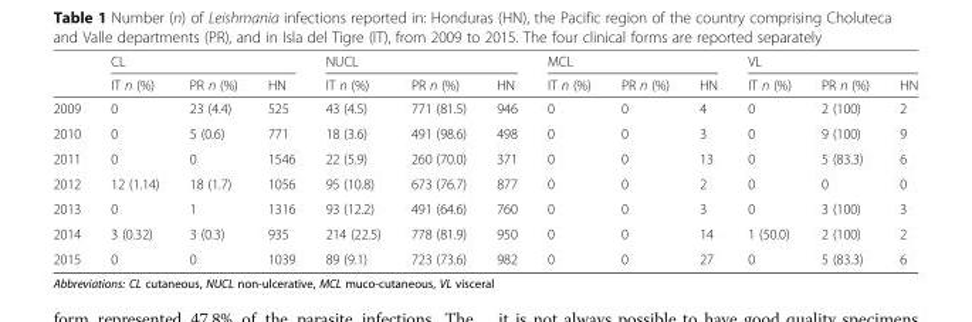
<table><thead><tr><td rowspan="2"></td><td colspan="3">CL</td><td colspan="3">NUCL</td><td colspan="3">MCL</td><td colspan="3">VL</td></tr><tr><td>IT n (%)</td><td>PR n (%)</td><td>HN</td><td>IT n (%)</td><td>PR n (%)</td><td>HN</td><td>IT n (%)</td><td>PR n (%)</td><td>HN</td><td>IT n (%)</td><td>PR n (%)</td><td>HN</td></tr></thead><tbody><tr><td>2009</td><td>0</td><td>23 (4.4)</td><td>525</td><td>43 (4.5)</td><td>771 (81.5)</td><td>946</td><td>0</td><td>0</td><td>4</td><td>0</td><td>2 (100)</td><td>2</td></tr><tr><td>2010</td><td>0</td><td>5 (0.6)</td><td>771</td><td>18 (3.6)</td><td>491 (98.6)</td><td>498</td><td>0</td><td>0</td><td>3</td><td>0</td><td>9 (100)</td><td>9</td></tr><tr><td>2011</td><td>0</td><td>0</td><td>1546</td><td>22 (5.9)</td><td>260 (70.0)</td><td>371</td><td>0</td><td>0</td><td>13</td><td>0</td><td>5 (83.3)</td><td>6</td></tr><tr><td>2012</td><td>12 (1.14)</td><td>18 (1.7)</td><td>1056</td><td>95 (10.8)</td><td>673 (76.7)</td><td>877</td><td>0</td><td>0</td><td>2</td><td>0</td><td>0</td><td>0</td></tr><tr><td>2013</td><td>0</td><td>1</td><td>1316</td><td>93 (12.2)</td><td>491 (64.6)</td><td>760</td><td>0</td><td>0</td><td>3</td><td>0</td><td>3 (100)</td><td>3</td></tr><tr><td>2014</td><td>3 (0.32)</td><td>3 (0.3)</td><td>935</td><td>214 (22.5)</td><td>778 (81.9)</td><td>950</td><td>0</td><td>0</td><td>14</td><td>1 (50.0)</td><td>2 (100)</td><td>2</td></tr><tr><td>2015</td><td>0</td><td>0</td><td>1039</td><td>89 (9.1)</td><td>723 (73.6)</td><td>982</td><td>0</td><td>0</td><td>27</td><td>0</td><td>5 (83.3)</td><td>6</td></tr></tbody></table>